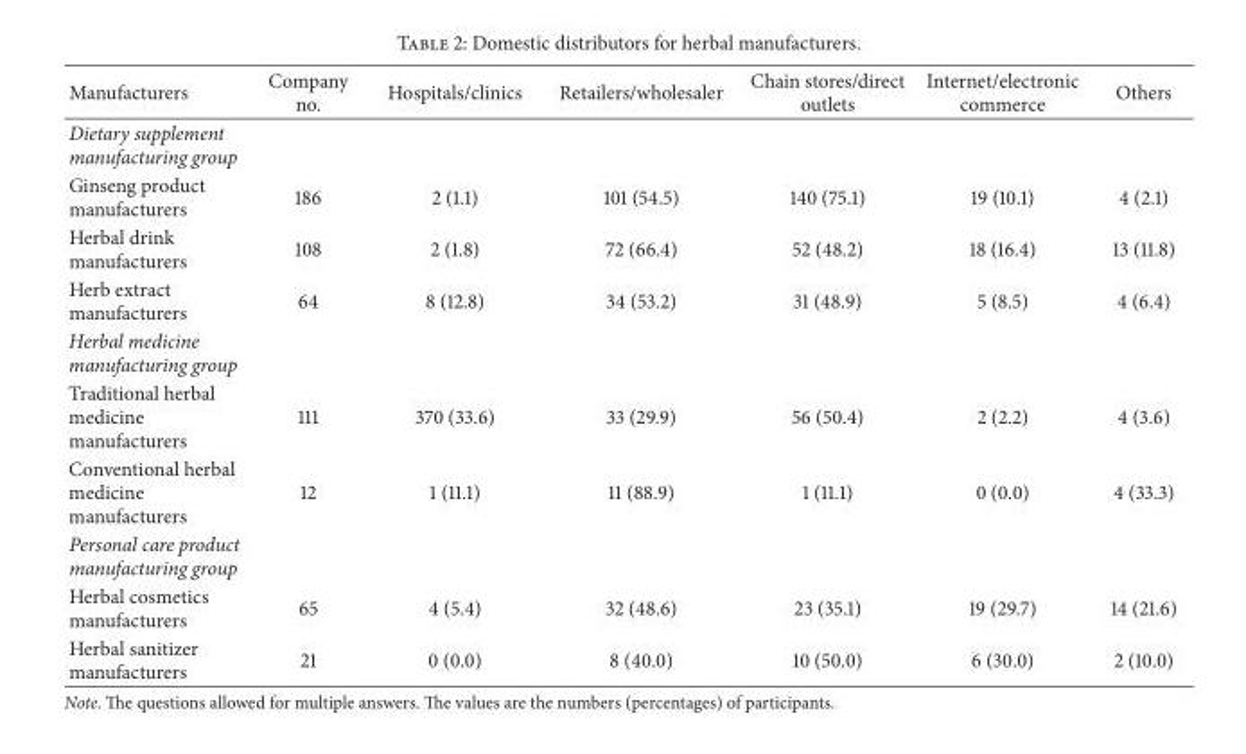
<table><thead><tr><td>Manufacturers</td><td>Company no.</td><td>Hospitals/clinics</td><td>Retailers/wholesaler</td><td>Chain stores/direct outlets</td><td>Internet/electronic commerce</td><td>Others</td></tr></thead><tbody><tr><td colspan="7">Dietary supplement manufacturing group</td></tr><tr><td>Ginseng product manufacturers</td><td>186</td><td>2 (1.1)</td><td>101 (54.5)</td><td>140 (75.1)</td><td>19 (10.1)</td><td>4 (2.1)</td></tr><tr><td>Herbal drink manufacturers</td><td>108</td><td>2 (1.8)</td><td>72 (66.4)</td><td>52 (48.2)</td><td>18 (16.4)</td><td>13 (11.8)</td></tr><tr><td>Herb extract manufacturers</td><td>64</td><td>8 (12.8)</td><td>34 (53.2)</td><td>31 (48.9)</td><td>5 (8.5)</td><td>4 (6.4)</td></tr><tr><td colspan="7">Herbal medicine manufacturing group</td></tr><tr><td>Traditional herbal medicine manufacturers</td><td>111</td><td>370 (33.6)</td><td>33 (29.9)</td><td>56 (50.4)</td><td>2 (2.2)</td><td>4 (3.6)</td></tr><tr><td>Conventional herbal medicine manufacturers</td><td>12</td><td>1 (11.1)</td><td>11 (88.9)</td><td>1 (11.1)</td><td>0 (0.0)</td><td>4 (33.3)</td></tr><tr><td colspan="7">Personal care product manufacturing group</td></tr><tr><td>Herbal cosmetics manufacturers</td><td>65</td><td>4 (5.4)</td><td>32 (48.6)</td><td>23 (35.1)</td><td>19 (29.7)</td><td>14 (21.6)</td></tr><tr><td>Herbal sanitizer manufacturers</td><td>21</td><td>0 (0.0)</td><td>8 (40.0)</td><td>10 (50.0)</td><td>6 (30.0)</td><td>2 (10.0)</td></tr></tbody></table>